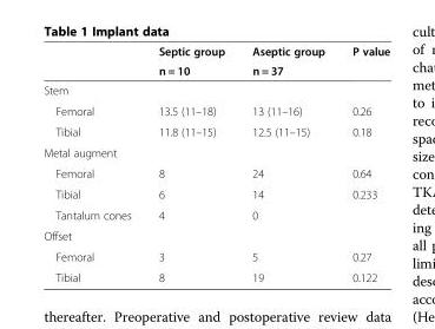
<table><thead><tr><td rowspan="2"></td><td rowspan="2">Septic group n = 10</td><td rowspan="2">Aseptic group n = 37</td><td rowspan="2">P value</td></tr><tr></tr></thead><tbody><tr><td colspan="4">Stem</td></tr><tr><td>Femoral</td><td>13.5 (11–18)</td><td>13 (11–16)</td><td>0.26</td></tr><tr><td>Tibial</td><td>11.8 (11–15)</td><td>12.5 (11–15)</td><td>0.18</td></tr><tr><td colspan="4">Metal augment</td></tr><tr><td>Femoral</td><td>8</td><td>24</td><td>0.64</td></tr><tr><td>Tibial</td><td>6</td><td>14</td><td>0.233</td></tr><tr><td>Tantalum cones</td><td>4</td><td>0</td><td></td></tr><tr><td colspan="4">Offset</td></tr><tr><td>Femoral</td><td>3</td><td>5</td><td>0.27</td></tr><tr><td>Tibial</td><td>8</td><td>19</td><td>0.122</td></tr></tbody></table>